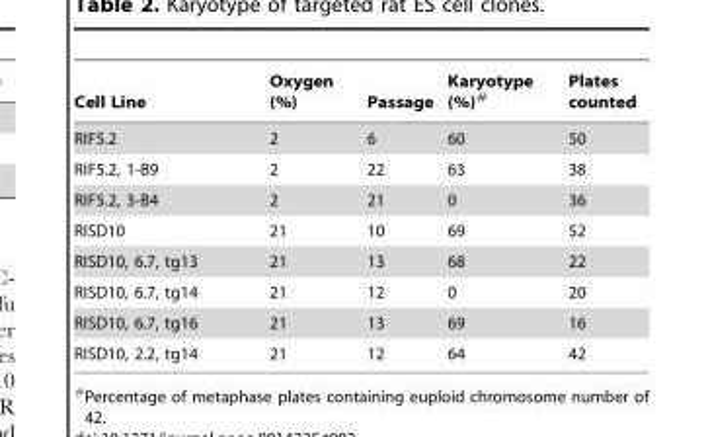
<table><thead><tr><td>Cell Line</td><td>Oxygen (%)</td><td>Passage</td><td>Karyotype (%)#</td><td>Plates counted</td></tr></thead><tbody><tr><td>RIF5.2</td><td>2</td><td>6</td><td>60</td><td>50</td></tr><tr><td>RIF5.2, 1-B9</td><td>2</td><td>22</td><td>63</td><td>38</td></tr><tr><td>RIF5.2, 3-B4</td><td>2</td><td>21</td><td>0</td><td>36</td></tr><tr><td>RISD10</td><td>21</td><td>10</td><td>69</td><td>52</td></tr><tr><td>RISD10, 6.7, tg13</td><td>21</td><td>13</td><td>68</td><td>22</td></tr><tr><td>RISD10, 6.7, tg14</td><td>21</td><td>12</td><td>0</td><td>20</td></tr><tr><td>RISD10, 6.7, tg16</td><td>21</td><td>13</td><td>69</td><td>16</td></tr><tr><td>RISD10, 2.2, tg14</td><td>21</td><td>12</td><td>64</td><td>42</td></tr></tbody></table>